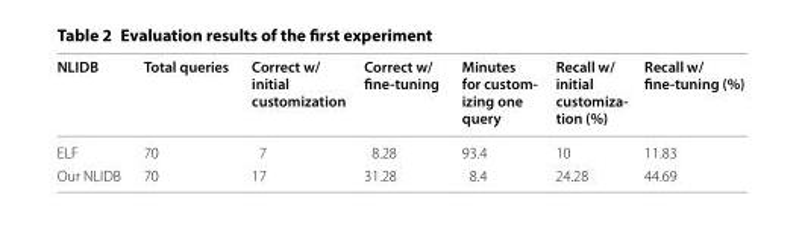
<table><thead><tr><td>NLIDB</td><td>Total queries</td><td>Correct w/ initial customization</td><td>Correct w/ fine-tuning</td><td>Minutes for custom- izing one query</td><td>Recall w/ initial customiza- tion (%)</td><td>Recall w/ fine-tuning (%)</td></tr></thead><tbody><tr><td>ELF</td><td>70</td><td>7</td><td>8.28</td><td>93.4</td><td>10</td><td>11.83</td></tr><tr><td>Our NLIDB</td><td>70</td><td>17</td><td>31.28</td><td>8.4</td><td>24.28</td><td>44.69</td></tr></tbody></table>